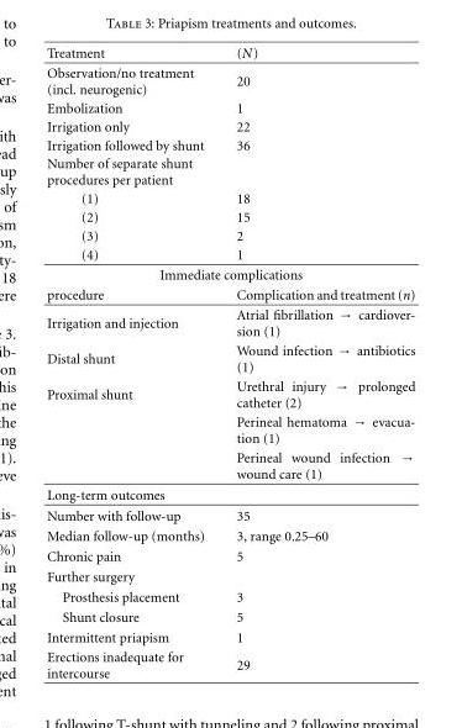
<table><thead><tr><td>Treatment</td><td>(N)</td></tr></thead><tbody><tr><td>Observation/no treatment (incl. neurogenic)</td><td>20</td></tr><tr><td>Embolization</td><td>1</td></tr><tr><td>Irrigation only</td><td>22</td></tr><tr><td>Irrigation followed by shunt</td><td>36</td></tr><tr><td colspan="2">Number of separate shunt procedures per patient</td></tr><tr><td>(1)</td><td>18</td></tr><tr><td>(2)</td><td>15</td></tr><tr><td>(3)</td><td>2</td></tr><tr><td>(4)</td><td>1</td></tr><tr><td colspan="2">Immediate complications</td></tr><tr><td>procedure</td><td>Complication and treatment (n)</td></tr><tr><td>Irrigation and injection</td><td>Atrial fibrillation → cardiover- sion (1)</td></tr><tr><td>Distal shunt</td><td>Wound infection → antibiotics (1)</td></tr><tr><td rowspan="3">Proximal shunt</td><td>Urethral injury → prolonged catheter (2)</td></tr><tr><td>Perineal hematoma → evacua- tion (1)</td></tr><tr><td>Perineal wound infection → wound care (1)</td></tr><tr><td colspan="2">Long-term outcomes</td></tr><tr><td>Number with follow-up</td><td>35</td></tr><tr><td>Median follow-up (months)</td><td>3, range 0.25–60</td></tr><tr><td>Chronic pain</td><td>5</td></tr><tr><td colspan="2">Further surgery</td></tr><tr><td>Prosthesis placement</td><td>3</td></tr><tr><td>Shunt closure</td><td>5</td></tr><tr><td>Intermittent priapism</td><td>1</td></tr><tr><td>Erections inadequate for intercourse</td><td>29</td></tr></tbody></table>